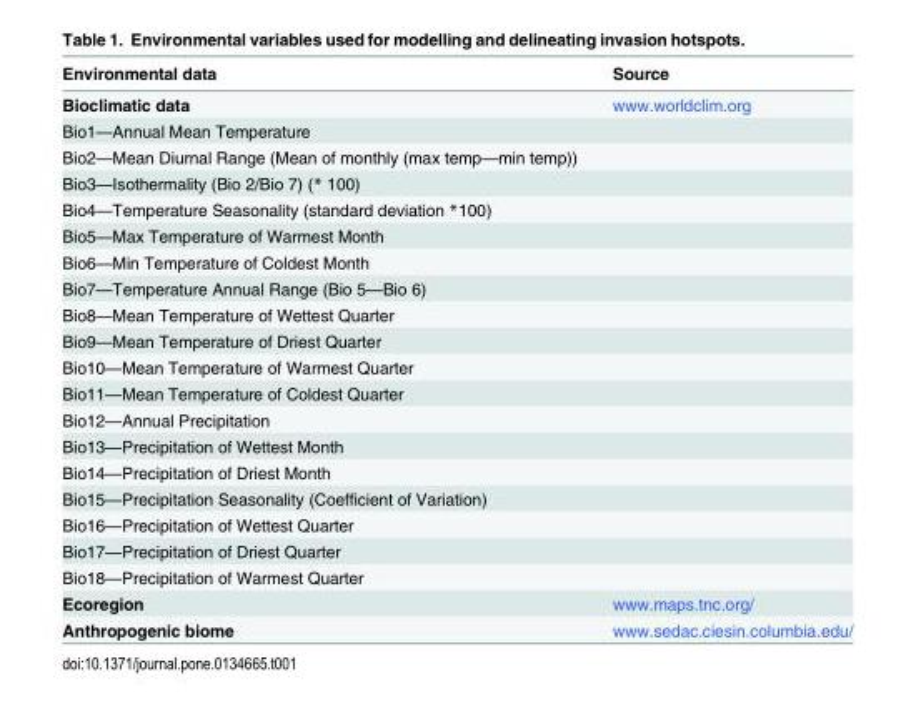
<table><thead><tr><td>Environmental data</td><td>Source</td></tr></thead><tbody><tr><td>Bioclimatic data</td><td>www.worldclim.org</td></tr><tr><td colspan="2">Bio1—Annual Mean Temperature</td></tr><tr><td colspan="2">Bio2—Mean Diurnal Range (Mean of monthly (max temp—min temp))</td></tr><tr><td colspan="2">Bio3—Isothermality (Bio 2/Bio 7) (* 100)</td></tr><tr><td colspan="2">Bio4—Temperature Seasonality (standard deviation *100)</td></tr><tr><td colspan="2">Bio5—Max Temperature of Warmest Month</td></tr><tr><td colspan="2">Bio6—Min Temperature of Coldest Month</td></tr><tr><td colspan="2">Bio7—Temperature Annual Range (Bio 5—Bio 6)</td></tr><tr><td colspan="2">Bio8—Mean Temperature of Wettest Quarter</td></tr><tr><td colspan="2">Bio9—Mean Temperature of Driest Quarter</td></tr><tr><td colspan="2">Bio10—Mean Temperature of Warmest Quarter</td></tr><tr><td colspan="2">Bio11—Mean Temperature of Coldest Quarter</td></tr><tr><td colspan="2">Bio12—Annual Precipitation</td></tr><tr><td colspan="2">Bio13—Precipitation of Wettest Month</td></tr><tr><td colspan="2">Bio14—Precipitation of Driest Month</td></tr><tr><td colspan="2">Bio15—Precipitation Seasonality (Coefficient of Variation)</td></tr><tr><td colspan="2">Bio16—Precipitation of Wettest Quarter</td></tr><tr><td colspan="2">Bio17—Precipitation of Driest Quarter</td></tr><tr><td colspan="2">Bio18—Precipitation of Warmest Quarter</td></tr><tr><td>Ecoregion</td><td>www.maps.tnc.org/</td></tr><tr><td>Anthropogenic biome</td><td>www.sedac.ciesin.columbia.edu/</td></tr></tbody></table>